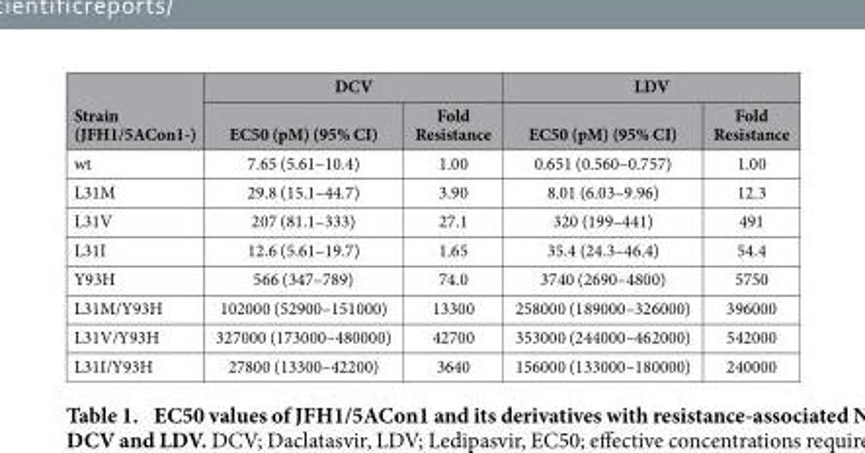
<table><thead><tr><td rowspan="2">Strain (JFH1/5ACon1-)</td><td colspan="2">DCV</td><td colspan="2">LDV</td></tr><tr><td>EC50 (pM) (95% CI)</td><td>Fold Resistance</td><td>EC50 (pM) (95% CI)</td><td>Fold Resistance</td></tr></thead><tbody><tr><td>wt</td><td>7.65 (5.61–10.4)</td><td>1.00</td><td>0.651 (0.560–0.757)</td><td>1.00</td></tr><tr><td>L31M</td><td>29.8 (15.1–44.7)</td><td>3.90</td><td>8.01 (6.03–9.96)</td><td>12.3</td></tr><tr><td>L31V</td><td>207 (81.1–333)</td><td>27.1</td><td>320 (199–441)</td><td>491</td></tr><tr><td>L31I</td><td>12.6 (5.61–19.7)</td><td>1.65</td><td>35.4 (24.3–46.4)</td><td>54.4</td></tr><tr><td>Y93H</td><td>566 (347–789)</td><td>74.0</td><td>3740 (2690–4800)</td><td>5750</td></tr><tr><td>L31M/Y93H</td><td>102000 (52900–151000)</td><td>13300</td><td>258000 (189000–326000)</td><td>396000</td></tr><tr><td>L31V/Y93H</td><td>327000 (173000–480000)</td><td>42700</td><td>353000 (244000–462000)</td><td>542000</td></tr><tr><td>L31I/Y93H</td><td>27800 (13300–42200)</td><td>3640</td><td>156000 (133000–180000)</td><td>240000</td></tr></tbody></table>